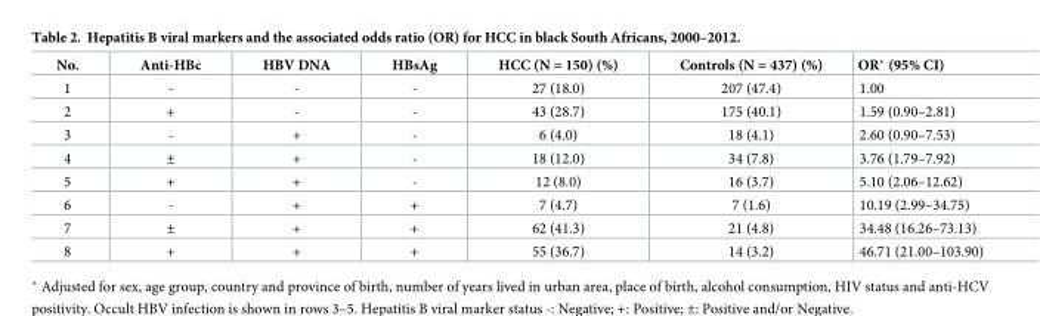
<table><thead><tr><td>No.</td><td>Anti-HBc</td><td>HBV DNA</td><td>HBsAg</td><td>HCC (N = 150) (%)</td><td>Controls (N = 437) (%)</td><td>OR* (95% CI)</td></tr></thead><tbody><tr><td>1</td><td>-</td><td>-</td><td>-</td><td>27 (18.0)</td><td>207 (47.4)</td><td>1.00</td></tr><tr><td>2</td><td>+</td><td>-</td><td>-</td><td>43 (28.7)</td><td>175 (40.1)</td><td>1.59 (0.90–2.81)</td></tr><tr><td>3</td><td>-</td><td>+</td><td>-</td><td>6 (4.0)</td><td>18 (4.1)</td><td>2.60 (0.90–7.53)</td></tr><tr><td>4</td><td>±</td><td>+</td><td>-</td><td>18 (12.0)</td><td>34 (7.8)</td><td>3.76 (1.79–7.92)</td></tr><tr><td>5</td><td>+</td><td>+</td><td>-</td><td>12 (8.0)</td><td>16 (3.7)</td><td>5.10 (2.06–12.62)</td></tr><tr><td>6</td><td>-</td><td>+</td><td>+</td><td>7 (4.7)</td><td>7 (1.6)</td><td>10.19 (2.99–34.75)</td></tr><tr><td>7</td><td>±</td><td>+</td><td>+</td><td>62 (41.3)</td><td>21 (4.8)</td><td>34.48 (16.26–73.13)</td></tr><tr><td>8</td><td>+</td><td>+</td><td>+</td><td>55 (36.7)</td><td>14 (3.2)</td><td>46.71 (21.00–103.90)</td></tr></tbody></table>